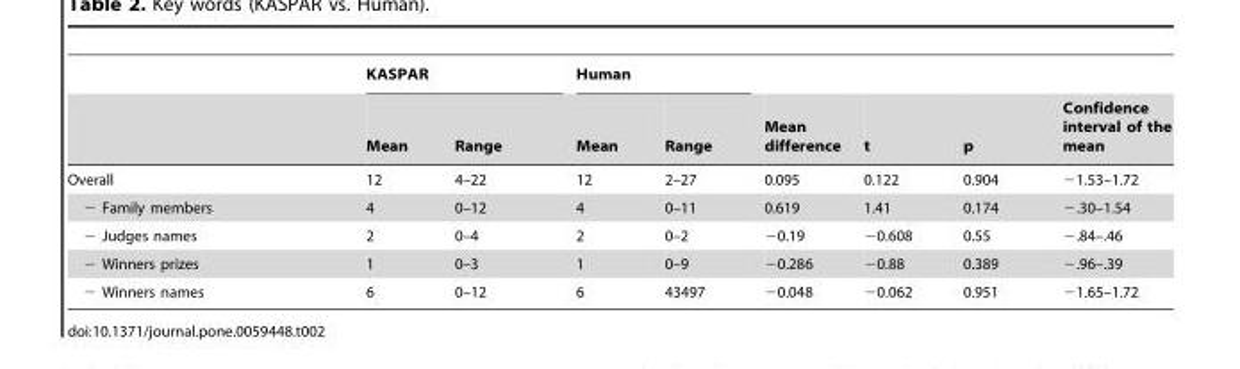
<table><thead><tr><td rowspan="2"></td><td colspan="2">KASPAR</td><td colspan="2">Human</td><td rowspan="2">Mean difference</td><td rowspan="2">t</td><td rowspan="2">p</td><td rowspan="2">Confidence interval of the mean</td></tr><tr><td>Mean</td><td>Range</td><td>Mean</td><td>Range</td></tr></thead><tbody><tr><td>Overall</td><td>12</td><td>4–22</td><td>12</td><td>2–27</td><td>0.095</td><td>0.122</td><td>0.904</td><td>−1.53–1.72</td></tr><tr><td>− Family members</td><td>4</td><td>0–12</td><td>4</td><td>0–11</td><td>0.619</td><td>1.41</td><td>0.174</td><td>−.30–1.54</td></tr><tr><td>− Judges names</td><td>2</td><td>0–4</td><td>2</td><td>0–2</td><td>−0.19</td><td>−0.608</td><td>0.55</td><td>−.84–.46</td></tr><tr><td>− Winners prizes</td><td>1</td><td>0–3</td><td>1</td><td>0–9</td><td>−0.286</td><td>−0.88</td><td>0.389</td><td>−.96–.39</td></tr><tr><td>− Winners names</td><td>6</td><td>0–12</td><td>6</td><td>43497</td><td>−0.048</td><td>−0.062</td><td>0.951</td><td>−1.65–1.72</td></tr></tbody></table>